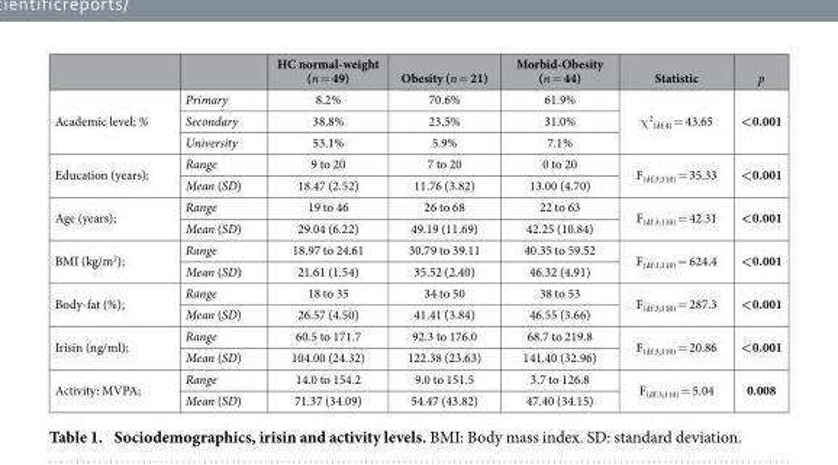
<table><thead><tr><td></td><td></td><td>HC normal-weight (n = 49)</td><td>Obesity (n = 21)</td><td>Morbid-Obesity (n = 44)</td><td>Statistic</td><td>p</td></tr></thead><tbody><tr><td rowspan="3">Academic level; %</td><td>Primary</td><td>8.2%</td><td>70.6%</td><td>61.9%</td><td rowspan="3">χ <sup>2</sup> <sub>(df:4)</sub> = 43.65</td><td rowspan="3">&lt;0.001</td></tr><tr><td>Secondary</td><td>38.8%</td><td>23.5%</td><td>31.0%</td></tr><tr><td>University</td><td>53.1%</td><td>5.9%</td><td>7.1%</td></tr><tr><td rowspan="2">Education (years);</td><td>Range</td><td>9 to 20</td><td>7 to 20</td><td>0 to 20</td><td rowspan="2">F<sub>(df:3;110)</sub> = 35.33</td><td rowspan="2">&lt;0.001</td></tr><tr><td>Mean (SD)</td><td>18.47 (2.52)</td><td>11.76 (3.82)</td><td>13.00 (4.70)</td></tr><tr><td rowspan="2">Age (years);</td><td>Range</td><td>19 to 46</td><td>26 to 68</td><td>22 to 63</td><td rowspan="2">F<sub>(df:3;110)</sub> = 42.31</td><td rowspan="2">&lt;0.001</td></tr><tr><td>Mean (SD)</td><td>29.04 (6.22)</td><td>49.19 (11.69)</td><td>42.25 (10.84)</td></tr><tr><td rowspan="2">BMI (kg/m<sup>2</sup>);</td><td>Range</td><td>18.97 to 24.61</td><td>30.79 to 39.11</td><td>40.35 to 59.52</td><td rowspan="2">F<sub>(df:3;110)</sub> = 624.4</td><td rowspan="2">&lt;0.001</td></tr><tr><td>Mean (SD)</td><td>21.61 (1.54)</td><td>35.52 (2.40)</td><td>46.32 (4.91)</td></tr><tr><td rowspan="2">Body-fat (%);</td><td>Range</td><td>18 to 35</td><td>34 to 50</td><td>38 to 53</td><td rowspan="2">F<sub>(df:3;110)</sub> = 287.3</td><td rowspan="2">&lt;0.001</td></tr><tr><td>Mean (SD)</td><td>26.57 (4.50)</td><td>41.41 (3.84)</td><td>46.55 (3.66)</td></tr><tr><td rowspan="2">Irisin (ng/ml);</td><td>Range</td><td>60.5 to 171.7</td><td>92.3 to 176.0</td><td>68.7 to 219.8</td><td rowspan="2">F<sub>(df:3;110)</sub> = 20.86</td><td rowspan="2">&lt;0.001</td></tr><tr><td>Mean (SD)</td><td>104.00 (24.32)</td><td>122.38 (23.63)</td><td>141.40 (32.96)</td></tr><tr><td rowspan="2">Activity: MVPA;</td><td>Range</td><td>14.0 to 154.2</td><td>9.0 to 151.5</td><td>3.7 to 126.8</td><td rowspan="2">F<sub>(df:3;110)</sub> = 5.04</td><td rowspan="2">0.008</td></tr><tr><td>Mean (SD)</td><td>71.37 (34.09)</td><td>54.47 (43.82)</td><td>47.40 (34.15)</td></tr></tbody></table>